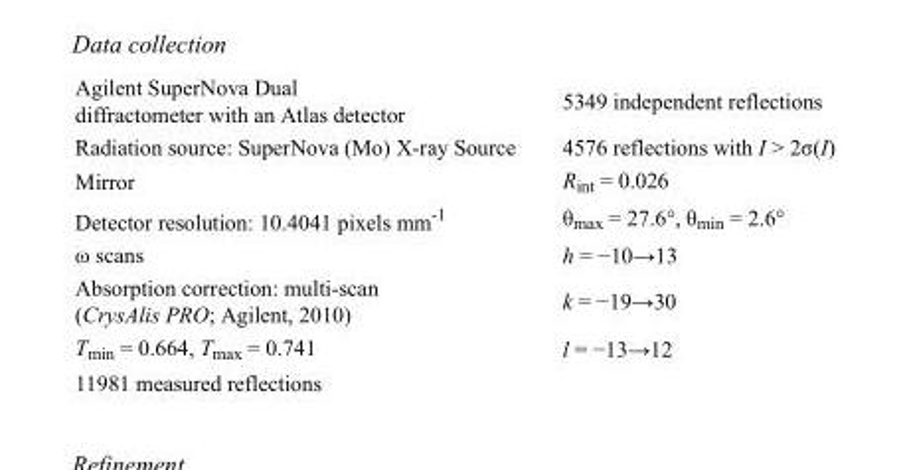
<table><tbody><tr><td>Agilent SuperNova Dual diffractometer with an Atlas detector</td><td>5349 independent reflections</td></tr><tr><td>Radiation source: SuperNova (Mo) X-ray Source</td><td>4576 reflections with I &gt; 2σ(I)</td></tr><tr><td>Mirror</td><td>R<sub>int</sub> = 0.026</td></tr><tr><td>Detector resolution: 10.4041 pixels mm<sup>-1</sup></td><td>θ<sub>max</sub> = 27.6°, θ<sub>min</sub> = 2.6°</td></tr><tr><td>ω scans</td><td>h = −10→13</td></tr><tr><td>Absorption correction: multi-scan (CrysAlis PRO; Agilent, 2010)</td><td>k = −19→30</td></tr><tr><td>T<sub>min</sub> = 0.664, T<sub>max</sub> = 0.741</td><td>l = −13→12</td></tr><tr><td>11981 measured reflections</td><td></td></tr></tbody></table>